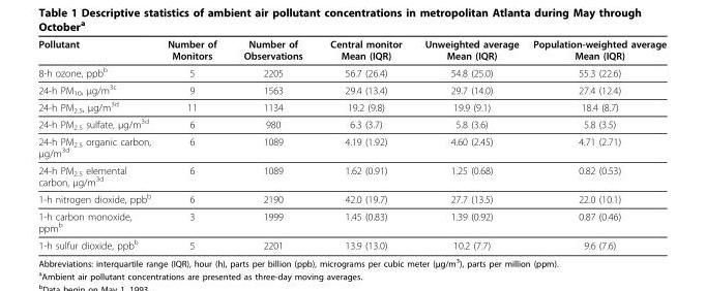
<table><thead><tr><td>Pollutant</td><td>Number of Monitors</td><td>Number of Observations</td><td>Central monitor Mean (IQR)</td><td>Unweighted average Mean (IQR)</td><td>Population-weighted average Mean (IQR)</td></tr></thead><tbody><tr><td>8-h ozone, ppb<sup>b</sup></td><td>5</td><td>2205</td><td>56.7 (26.4)</td><td>54.8 (25.0)</td><td>55.3 (22.6)</td></tr><tr><td>24-h PM<sub>10</sub>, μg/m<sup>3c</sup></td><td>9</td><td>1563</td><td>29.4 (13.4)</td><td>29.7 (14.0)</td><td>27.4 (12.4)</td></tr><tr><td>24-h PM<sub>2.5</sub>, μg/m<sup>3d</sup></td><td>11</td><td>1134</td><td>19.2 (9.8)</td><td>19.9 (9.1)</td><td>18.4 (8.7)</td></tr><tr><td>24-h PM<sub>2.5</sub> sulfate, μg/m<sup>3d</sup></td><td>6</td><td>980</td><td>6.3 (3.7)</td><td>5.8 (3.6)</td><td>5.8 (3.5)</td></tr><tr><td>24-h PM<sub>2.5</sub> organic carbon, μg/m<sup>3d</sup></td><td>6</td><td>1089</td><td>4.19 (1.92)</td><td>4.60 (2.45)</td><td>4.71 (2.71)</td></tr><tr><td>24-h PM<sub>2.5</sub> elemental carbon, μg/m<sup>3d</sup></td><td>6</td><td>1089</td><td>1.62 (0.91)</td><td>1.25 (0.68)</td><td>0.82 (0.53)</td></tr><tr><td>1-h nitrogen dioxide, ppb<sup>b</sup></td><td>6</td><td>2190</td><td>42.0 (19.7)</td><td>27.7 (13.5)</td><td>22.0 (10.1)</td></tr><tr><td>1-h carbon monoxide, ppm<sup>b</sup></td><td>3</td><td>1999</td><td>1.45 (0.83)</td><td>1.39 (0.92)</td><td>0.87 (0.46)</td></tr><tr><td>1-h sulfur dioxide, ppb<sup>b</sup></td><td>5</td><td>2201</td><td>13.9 (13.0)</td><td>10.2 (7.7)</td><td>9.6 (7.6)</td></tr></tbody></table>